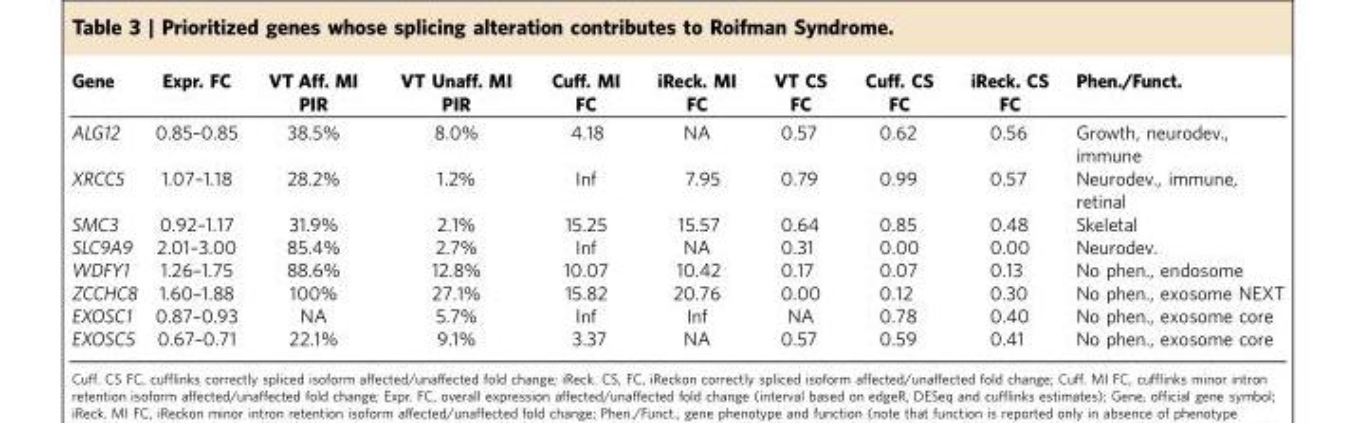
<table><thead><tr><td>Gene</td><td>Expr. FC</td><td>VT Aff. MI PIR</td><td>VT Unaff. MI PIR</td><td>Cuff. MI FC</td><td>iReck. MI FC</td><td>VT CS FC</td><td>Cuff. CS FC</td><td>iReck. CS FC</td><td>Phen./Funct.</td></tr></thead><tbody><tr><td>ALG12</td><td>0.85–0.85</td><td>38.5%</td><td>8.0%</td><td>4.18</td><td>NA</td><td>0.57</td><td>0.62</td><td>0.56</td><td>Growth, neurodev., immune</td></tr><tr><td>XRCC5</td><td>1.07–1.18</td><td>28.2%</td><td>1.2%</td><td>Inf</td><td>7.95</td><td>0.79</td><td>0.99</td><td>0.57</td><td>Neurodev., immune, retinal</td></tr><tr><td>SMC3</td><td>0.92–1.17</td><td>31.9%</td><td>2.1%</td><td>15.25</td><td>15.57</td><td>0.64</td><td>0.85</td><td>0.48</td><td>Skeletal</td></tr><tr><td>SLC9A9</td><td>2.01–3.00</td><td>85.4%</td><td>2.7%</td><td>Inf</td><td>NA</td><td>0.31</td><td>0.00</td><td>0.00</td><td>Neurodev.</td></tr><tr><td>WDFY1</td><td>1.26–1.75</td><td>88.6%</td><td>12.8%</td><td>10.07</td><td>10.42</td><td>0.17</td><td>0.07</td><td>0.13</td><td>No phen., endosome</td></tr><tr><td>ZCCHC8</td><td>1.60–1.88</td><td>100%</td><td>27.1%</td><td>15.82</td><td>20.76</td><td>0.00</td><td>0.12</td><td>0.30</td><td>No phen., exosome NEXT</td></tr><tr><td>EXOSC1</td><td>0.87–0.93</td><td>NA</td><td>5.7%</td><td>Inf</td><td>Inf</td><td>NA</td><td>0.78</td><td>0.40</td><td>No phen., exosome core</td></tr><tr><td>EXOSC5</td><td>0.67–0.71</td><td>22.1%</td><td>9.1%</td><td>3.37</td><td>NA</td><td>0.57</td><td>0.59</td><td>0.41</td><td>No phen., exosome core</td></tr></tbody></table>